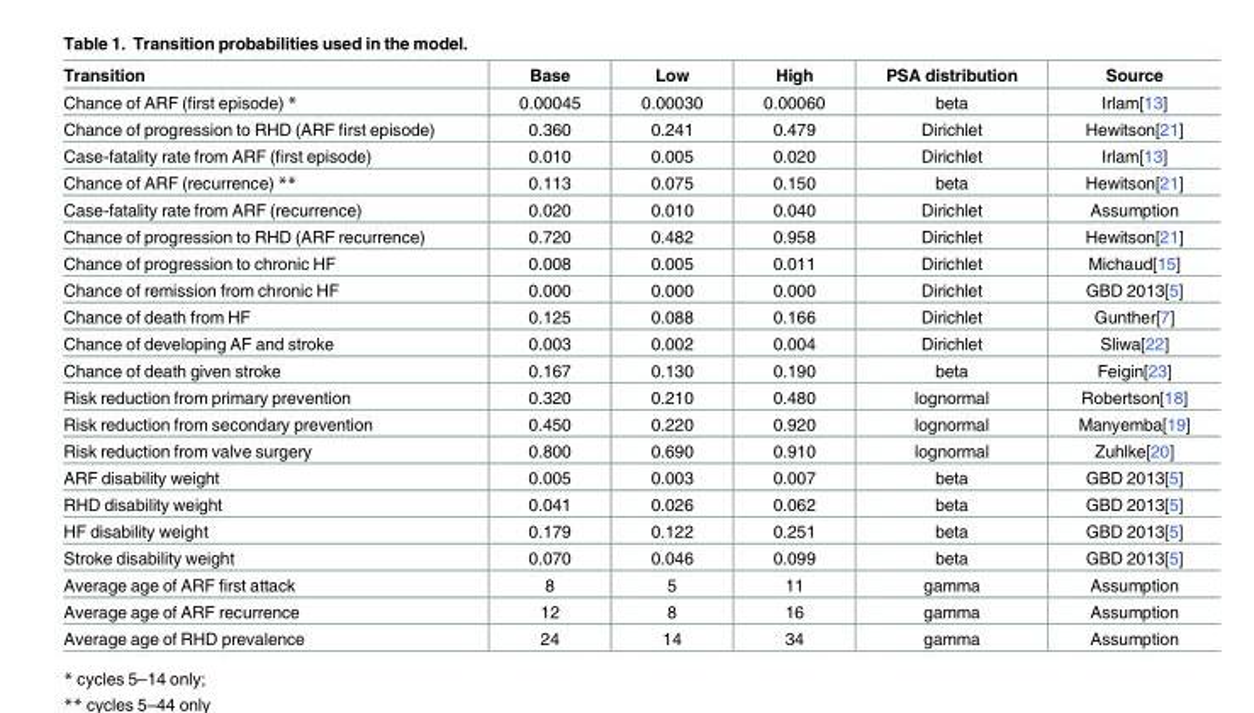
<table><thead><tr><td>Transition</td><td>Base</td><td>Low</td><td>High</td><td>PSA distribution</td><td>Source</td></tr></thead><tbody><tr><td>Chance of ARF (first episode) *</td><td>0.00045</td><td>0.00030</td><td>0.00060</td><td>beta</td><td>Irlam[13]</td></tr><tr><td>Chance of progression to RHD (ARF first episode)</td><td>0.360</td><td>0.241</td><td>0.479</td><td>Dirichlet</td><td>Hewitson[21]</td></tr><tr><td>Case-fatality rate from ARF (first episode)</td><td>0.010</td><td>0.005</td><td>0.020</td><td>Dirichlet</td><td>Irlam[13]</td></tr><tr><td>Chance of ARF (recurrence) **</td><td>0.113</td><td>0.075</td><td>0.150</td><td>beta</td><td>Hewitson[21]</td></tr><tr><td>Case-fatality rate from ARF (recurrence)</td><td>0.020</td><td>0.010</td><td>0.040</td><td>Dirichlet</td><td>Assumption</td></tr><tr><td>Chance of progression to RHD (ARF recurrence)</td><td>0.720</td><td>0.482</td><td>0.958</td><td>Dirichlet</td><td>Hewitson[21]</td></tr><tr><td>Chance of progression to chronic HF</td><td>0.008</td><td>0.005</td><td>0.011</td><td>Dirichlet</td><td>Michaud[15]</td></tr><tr><td>Chance of remission from chronic HF</td><td>0.000</td><td>0.000</td><td>0.000</td><td>Dirichlet</td><td>GBD 2013[5]</td></tr><tr><td>Chance of death from HF</td><td>0.125</td><td>0.088</td><td>0.166</td><td>Dirichlet</td><td>Gunther[7]</td></tr><tr><td>Chance of developing AF and stroke</td><td>0.003</td><td>0.002</td><td>0.004</td><td>Dirichlet</td><td>Sliwa[22]</td></tr><tr><td>Chance of death given stroke</td><td>0.167</td><td>0.130</td><td>0.190</td><td>beta</td><td>Feigin[23]</td></tr><tr><td>Risk reduction from primary prevention</td><td>0.320</td><td>0.210</td><td>0.480</td><td>lognormal</td><td>Robertson[18]</td></tr><tr><td>Risk reduction from secondary prevention</td><td>0.450</td><td>0.220</td><td>0.920</td><td>lognormal</td><td>Manyemba[19]</td></tr><tr><td>Risk reduction from valve surgery</td><td>0.800</td><td>0.690</td><td>0.910</td><td>lognormal</td><td>Zuhlke[20]</td></tr><tr><td>ARF disability weight</td><td>0.005</td><td>0.003</td><td>0.007</td><td>beta</td><td>GBD 2013[5]</td></tr><tr><td>RHD disability weight</td><td>0.041</td><td>0.026</td><td>0.062</td><td>beta</td><td>GBD 2013[5]</td></tr><tr><td>HF disability weight</td><td>0.179</td><td>0.122</td><td>0.251</td><td>beta</td><td>GBD 2013[5]</td></tr><tr><td>Stroke disability weight</td><td>0.070</td><td>0.046</td><td>0.099</td><td>beta</td><td>GBD 2013[5]</td></tr><tr><td>Average age of ARF first attack</td><td>8</td><td>5</td><td>11</td><td>gamma</td><td>Assumption</td></tr><tr><td>Average age of ARF recurrence</td><td>12</td><td>8</td><td>16</td><td>gamma</td><td>Assumption</td></tr><tr><td>Average age of RHD prevalence</td><td>24</td><td>14</td><td>34</td><td>gamma</td><td>Assumption</td></tr></tbody></table>